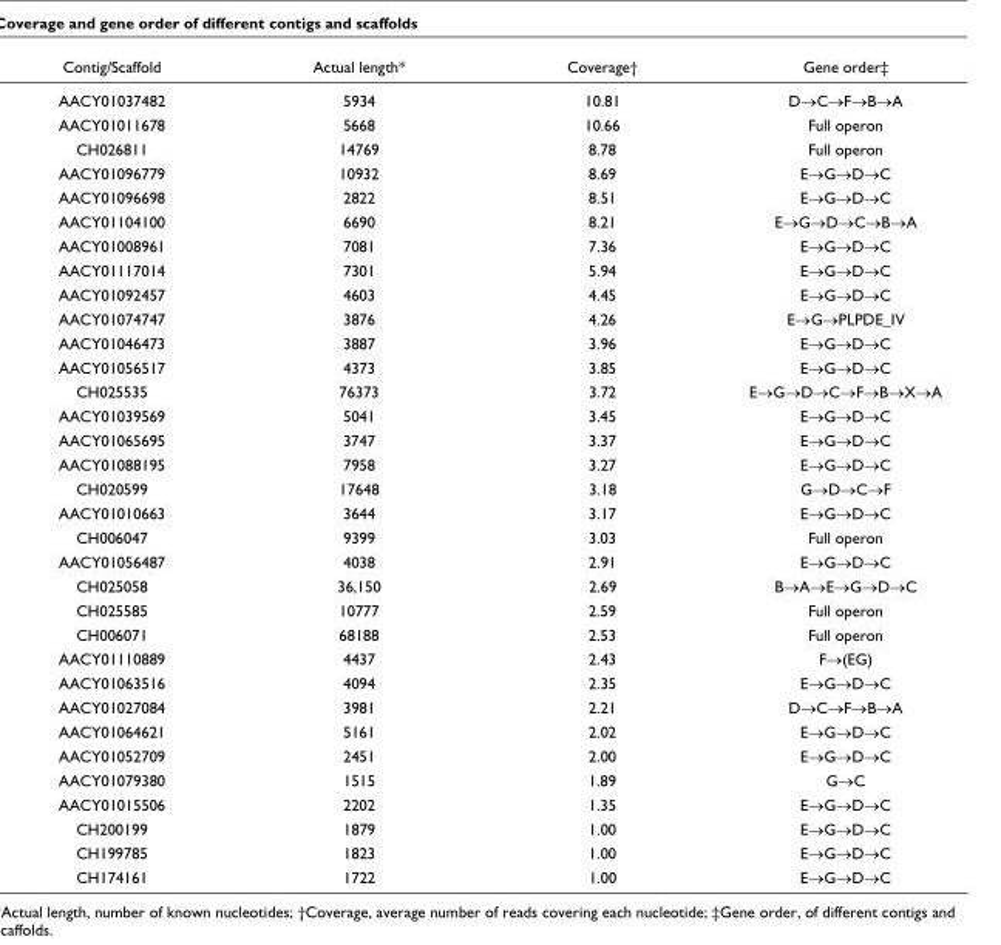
<table><thead><tr><td>Contig/Scaffold</td><td>Actual length*</td><td>Coverage†</td><td>Gene order‡</td></tr></thead><tbody><tr><td>AACY01037482</td><td>5934</td><td>10.81</td><td>D→C→F→B→A</td></tr><tr><td>AACY01011678</td><td>5668</td><td>10.66</td><td>Full operon</td></tr><tr><td>CH026811</td><td>14769</td><td>8.78</td><td>Full operon</td></tr><tr><td>AACY01096779</td><td>10932</td><td>8.69</td><td>E→G→D→C</td></tr><tr><td>AACY01096698</td><td>2822</td><td>8.51</td><td>E→G→D→C</td></tr><tr><td>AACY01104100</td><td>6690</td><td>8.21</td><td>E→G→D→C→B→A</td></tr><tr><td>AACY01008961</td><td>7081</td><td>7.36</td><td>E→G→D→C</td></tr><tr><td>AACY01117014</td><td>7301</td><td>5.94</td><td>E→G→D→C</td></tr><tr><td>AACY01092457</td><td>4603</td><td>4.45</td><td>E→G→D→C</td></tr><tr><td>AACY01074747</td><td>3876</td><td>4.26</td><td>E→G→PLPDE_IV</td></tr><tr><td>AACY01046473</td><td>3887</td><td>3.96</td><td>E→G→D→C</td></tr><tr><td>AACY01056517</td><td>4373</td><td>3.85</td><td>E→G→D→C</td></tr><tr><td>CH025535</td><td>76373</td><td>3.72</td><td>E→G→D→C→F→B→X→A</td></tr><tr><td>AACY01039569</td><td>5041</td><td>3.45</td><td>E→G→D→C</td></tr><tr><td>AACY01065695</td><td>3747</td><td>3.37</td><td>E→G→D→C</td></tr><tr><td>AACY01088195</td><td>7958</td><td>3.27</td><td>E→G→D→C</td></tr><tr><td>CH020599</td><td>17648</td><td>3.18</td><td>G→D→C→F</td></tr><tr><td>AACY01010663</td><td>3644</td><td>3.17</td><td>E→G→D→C</td></tr><tr><td>CH006047</td><td>9399</td><td>3.03</td><td>Full operon</td></tr><tr><td>AACY01056487</td><td>4038</td><td>2.91</td><td>E→G→D→C</td></tr><tr><td>CH025058</td><td>36,150</td><td>2.69</td><td>B→A→E→G→D→C</td></tr><tr><td>CH025585</td><td>10777</td><td>2.59</td><td>Full operon</td></tr><tr><td>CH006071</td><td>68188</td><td>2.53</td><td>Full operon</td></tr><tr><td>AACY01110889</td><td>4437</td><td>2.43</td><td>F→(EG)</td></tr><tr><td>AACY01063516</td><td>4094</td><td>2.35</td><td>E→G→D→C</td></tr><tr><td>AACY01027084</td><td>3981</td><td>2.21</td><td>D→C→F→B→A</td></tr><tr><td>AACY01064621</td><td>5161</td><td>2.02</td><td>E→G→D→C</td></tr><tr><td>AACY01052709</td><td>2451</td><td>2.00</td><td>E→G→D→C</td></tr><tr><td>AACY01079380</td><td>1515</td><td>1.89</td><td>G→C</td></tr><tr><td>AACY01015506</td><td>2202</td><td>1.35</td><td>E→G→D→C</td></tr><tr><td>CH200199</td><td>1879</td><td>1.00</td><td>E→G→D→C</td></tr><tr><td>CH199785</td><td>1823</td><td>1.00</td><td>E→G→D→C</td></tr><tr><td>CH174161</td><td>1722</td><td>1.00</td><td>E→G→D→C</td></tr></tbody></table>